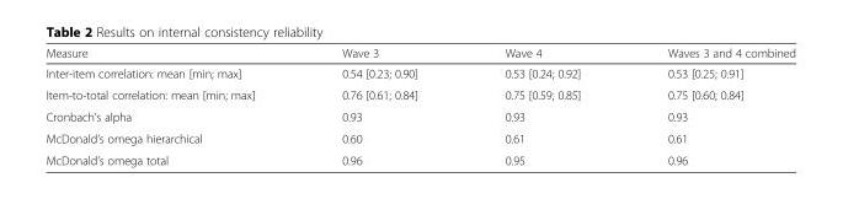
<table><thead><tr><td>Measure</td><td>Wave 3</td><td>Wave 4</td><td>Waves 3 and 4 combined</td></tr></thead><tbody><tr><td>Inter-item correlation: mean [min; max]</td><td>0.54 [0.23; 0.90]</td><td>0.53 [0.24; 0.92]</td><td>0.53 [0.25; 0.91]</td></tr><tr><td>Item-to-total correlation: mean [min; max]</td><td>0.76 [0.61; 0.84]</td><td>0.75 [0.59; 0.85]</td><td>0.75 [0.60; 0.84]</td></tr><tr><td>Cronbach’s alpha</td><td>0.93</td><td>0.93</td><td>0.93</td></tr><tr><td>McDonald’s omega hierarchical</td><td>0.60</td><td>0.61</td><td>0.61</td></tr><tr><td>McDonald’s omega total</td><td>0.96</td><td>0.95</td><td>0.96</td></tr></tbody></table>